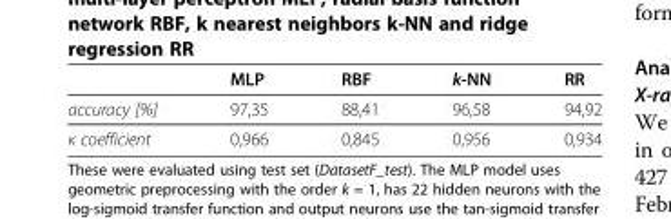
<table><thead><tr><td></td><td>MLP</td><td>RBF</td><td>k-NN</td><td>RR</td></tr></thead><tbody><tr><td>accuracy [%]</td><td>97,35</td><td>88,41</td><td>96,58</td><td>94,92</td></tr><tr><td>κ coefficient</td><td>0,966</td><td>0,845</td><td>0,956</td><td>0,934</td></tr></tbody></table>